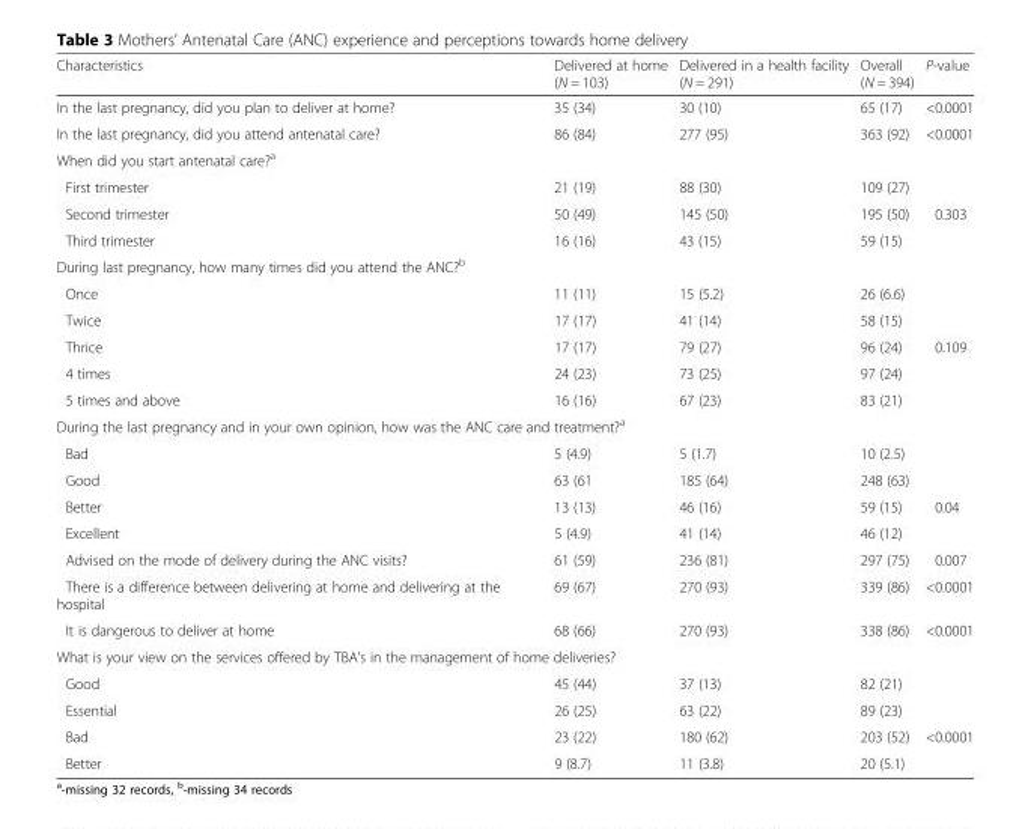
<table><thead><tr><td>Characteristics</td><td>Delivered at home (N = 103)</td><td>Delivered in a health facility (N = 291)</td><td>Overall (N = 394)</td><td>P-value</td></tr></thead><tbody><tr><td>In the last pregnancy, did you plan to deliver at home?</td><td>35 (34)</td><td>30 (10)</td><td>65 (17)</td><td>&lt;0.0001</td></tr><tr><td>In the last pregnancy, did you attend antenatal care?</td><td>86 (84)</td><td>277 (95)</td><td>363 (92)</td><td>&lt;0.0001</td></tr><tr><td colspan="5">When did you start antenatal care?<sup>a</sup></td></tr><tr><td>First trimester</td><td>21 (19)</td><td>88 (30)</td><td>109 (27)</td><td></td></tr><tr><td>Second trimester</td><td>50 (49)</td><td>145 (50)</td><td>195 (50)</td><td>0.303</td></tr><tr><td>Third trimester</td><td>16 (16)</td><td>43 (15)</td><td>59 (15)</td><td></td></tr><tr><td colspan="5">During last pregnancy, how many times did you attend the ANC?<sup>b</sup></td></tr><tr><td>Once</td><td>11 (11)</td><td>15 (5.2)</td><td>26 (6.6)</td><td></td></tr><tr><td>Twice</td><td>17 (17)</td><td>41 (14)</td><td>58 (15)</td><td></td></tr><tr><td>Thrice</td><td>17 (17)</td><td>79 (27)</td><td>96 (24)</td><td>0.109</td></tr><tr><td>4 times</td><td>24 (23)</td><td>73 (25)</td><td>97 (24)</td><td></td></tr><tr><td>5 times and above</td><td>16 (16)</td><td>67 (23)</td><td>83 (21)</td><td></td></tr><tr><td colspan="5">During the last pregnancy and in your own opinion, how was the ANC care and treatment?<sup>a</sup></td></tr><tr><td>Bad</td><td>5 (4.9)</td><td>5 (1.7)</td><td>10 (2.5)</td><td></td></tr><tr><td>Good</td><td>63 (61</td><td>185 (64)</td><td>248 (63)</td><td></td></tr><tr><td>Better</td><td>13 (13)</td><td>46 (16)</td><td>59 (15)</td><td>0.04</td></tr><tr><td>Excellent</td><td>5 (4.9)</td><td>41 (14)</td><td>46 (12)</td><td></td></tr><tr><td>Advised on the mode of delivery during the ANC visits?</td><td>61 (59)</td><td>236 (81)</td><td>297 (75)</td><td>0.007</td></tr><tr><td>There is a difference between delivering at home and delivering at the hospital</td><td>69 (67)</td><td>270 (93)</td><td>339 (86)</td><td>&lt;0.0001</td></tr><tr><td>It is dangerous to deliver at home</td><td>68 (66)</td><td>270 (93)</td><td>338 (86)</td><td>&lt;0.0001</td></tr><tr><td colspan="5">What is your view on the services offered by TBA’s in the management of home deliveries?</td></tr><tr><td>Good</td><td>45 (44)</td><td>37 (13)</td><td>82 (21)</td><td></td></tr><tr><td>Essential</td><td>26 (25)</td><td>63 (22)</td><td>89 (23)</td><td></td></tr><tr><td>Bad</td><td>23 (22)</td><td>180 (62)</td><td>203 (52)</td><td>&lt;0.0001</td></tr><tr><td>Better</td><td>9 (8.7)</td><td>11 (3.8)</td><td>20 (5.1)</td><td></td></tr></tbody></table>